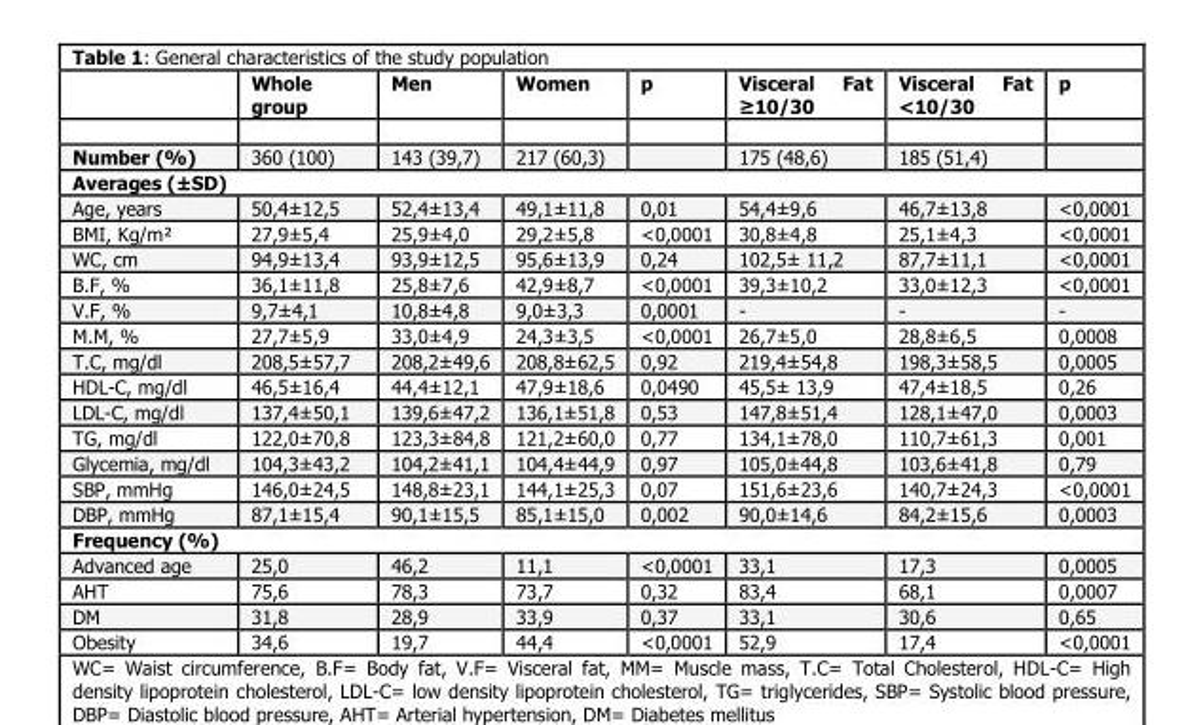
<table><thead><tr><td></td><td>Whole group</td><td>Men</td><td>Women</td><td>p</td><td>Visceral Fat ≥10/30</td><td>Visceral Fat &lt;10/30</td><td>p</td></tr></thead><tbody><tr><td>Number (%)</td><td>360 (100)</td><td>143 (39,7)</td><td>217 (60,3)</td><td></td><td>175 (48,6)</td><td>185 (51,4)</td><td></td></tr><tr><td colspan="8">Averages (±SD)</td></tr><tr><td>Age, years</td><td>50,4±12,5</td><td>52,4±13,4</td><td>49,1±11,8</td><td>0,01</td><td>54,4±9,6</td><td>46,7±13,8</td><td>&lt;0,0001</td></tr><tr><td>BMI, Kg/m²</td><td>27,9±5,4</td><td>25,9±4,0</td><td>29,2±5,8</td><td>&lt;0,0001</td><td>30,8±4,8</td><td>25,1±4,3</td><td>&lt;0,0001</td></tr><tr><td>WC, cm</td><td>94,9±13,4</td><td>93,9±12,5</td><td>95,6±13,9</td><td>0,24</td><td>102,5± 11,2</td><td>87,7±11,1</td><td>&lt;0,0001</td></tr><tr><td>B.F, %</td><td>36,1±11,8</td><td>25,8±7,6</td><td>42,9±8,7</td><td>&lt;0,0001</td><td>39,3±10,2</td><td>33,0±12,3</td><td>&lt;0,0001</td></tr><tr><td>V.F, %</td><td>9,7±4,1</td><td>10,8±4,8</td><td>9,0±3,3</td><td>0,0001</td><td>-</td><td>-</td><td>-</td></tr><tr><td>M.M, %</td><td>27,7±5,9</td><td>33,0±4,9</td><td>24,3±3,5</td><td>&lt;0,0001</td><td>26,7±5,0</td><td>28,8±6,5</td><td>0,0008</td></tr><tr><td>T.C, mg/dl</td><td>208,5±57,7</td><td>208,2±49,6</td><td>208,8±62,5</td><td>0,92</td><td>219,4±54,8</td><td>198,3±58,5</td><td>0,0005</td></tr><tr><td>HDL-C, mg/dl</td><td>46,5±16,4</td><td>44,4±12,1</td><td>47,9±18,6</td><td>0,0490</td><td>45,5± 13,9</td><td>47,4±18,5</td><td>0,26</td></tr><tr><td>LDL-C, mg/dl</td><td>137,4±50,1</td><td>139,6±47,2</td><td>136,1±51,8</td><td>0,53</td><td>147,8±51,4</td><td>128,1±47,0</td><td>0,0003</td></tr><tr><td>TG, mg/dl</td><td>122,0±70,8</td><td>123,3±84,8</td><td>121,2±60,0</td><td>0,77</td><td>134,1±78,0</td><td>110,7±61,3</td><td>0,001</td></tr><tr><td>Glycemia, mg/dl</td><td>104,3±43,2</td><td>104,2±41,1</td><td>104,4±44,9</td><td>0,97</td><td>105,0±44,8</td><td>103,6±41,8</td><td>0,79</td></tr><tr><td>SBP, mmHg</td><td>146,0±24,5</td><td>148,8±23,1</td><td>144,1±25,3</td><td>0,07</td><td>151,6±23,6</td><td>140,7±24,3</td><td>&lt;0,0001</td></tr><tr><td>DBP, mmHg</td><td>87,1±15,4</td><td>90,1±15,5</td><td>85,1±15,0</td><td>0,002</td><td>90,0±14,6</td><td>84,2±15,6</td><td>0,0003</td></tr><tr><td colspan="8">Frequency (%)</td></tr><tr><td>Advanced age</td><td>25,0</td><td>46,2</td><td>11,1</td><td>&lt;0,0001</td><td>33,1</td><td>17,3</td><td>0,0005</td></tr><tr><td>AHT</td><td>75,6</td><td>78,3</td><td>73,7</td><td>0,32</td><td>83,4</td><td>68,1</td><td>0,0007</td></tr><tr><td>DM</td><td>31,8</td><td>28,9</td><td>33,9</td><td>0,37</td><td>33,1</td><td>30,6</td><td>0,65</td></tr><tr><td>Obesity</td><td>34,6</td><td>19,7</td><td>44,4</td><td>&lt;0,0001</td><td>52,9</td><td>17,4</td><td>&lt;0,0001</td></tr></tbody></table>